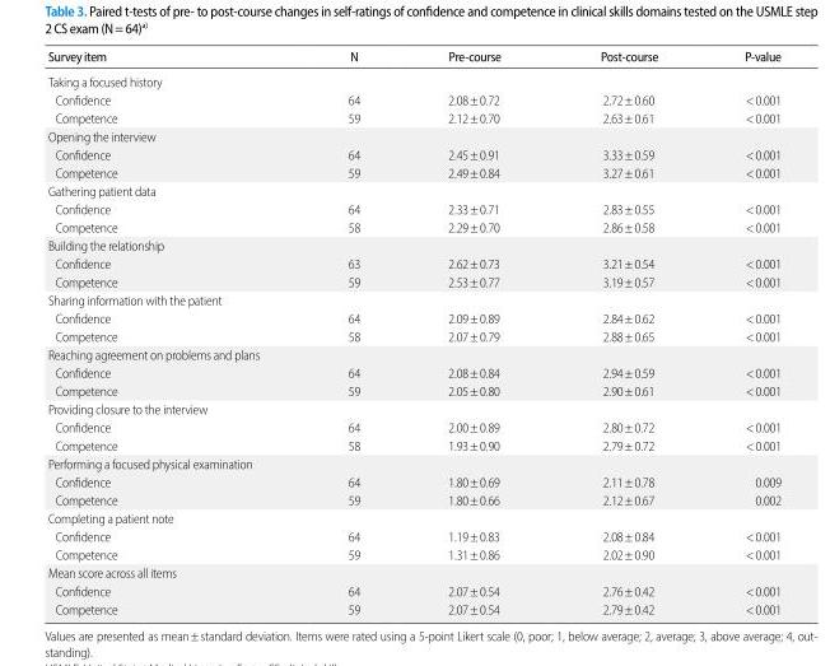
<table><thead><tr><td>Survey item</td><td>N</td><td>Pre-course</td><td>Post-course</td><td>P-value</td></tr></thead><tbody><tr><td colspan="5">Taking a focused history</td></tr><tr><td>Confidence</td><td>64</td><td>2.08±0.72</td><td>2.72±0.60</td><td>&lt;0.001</td></tr><tr><td>Competence</td><td>59</td><td>2.12±0.70</td><td>2.63±0.61</td><td>&lt;0.001</td></tr><tr><td colspan="5">Opening the interview</td></tr><tr><td>Confidence</td><td>64</td><td>2.45±0.91</td><td>3.33±0.59</td><td>&lt;0.001</td></tr><tr><td>Competence</td><td>59</td><td>2.49±0.84</td><td>3.27±0.61</td><td>&lt;0.001</td></tr><tr><td colspan="5">Gathering patient data</td></tr><tr><td>Confidence</td><td>64</td><td>2.33±0.71</td><td>2.83±0.55</td><td>&lt;0.001</td></tr><tr><td>Competence</td><td>58</td><td>2.29±0.70</td><td>2.86±0.58</td><td>&lt;0.001</td></tr><tr><td colspan="5">Building the relationship</td></tr><tr><td>Confidence</td><td>63</td><td>2.62±0.73</td><td>3.21±0.54</td><td>&lt;0.001</td></tr><tr><td>Competence</td><td>59</td><td>2.53±0.77</td><td>3.19±0.57</td><td>&lt;0.001</td></tr><tr><td colspan="5">Sharing information with the patient</td></tr><tr><td>Confidence</td><td>64</td><td>2.09±0.89</td><td>2.84±0.62</td><td>&lt;0.001</td></tr><tr><td>Competence</td><td>58</td><td>2.07±0.79</td><td>2.88±0.65</td><td>&lt;0.001</td></tr><tr><td colspan="5">Reaching agreement on problems and plans</td></tr><tr><td>Confidence</td><td>64</td><td>2.08±0.84</td><td>2.94±0.59</td><td>&lt;0.001</td></tr><tr><td>Competence</td><td>59</td><td>2.05±0.80</td><td>2.90±0.61</td><td>&lt;0.001</td></tr><tr><td colspan="5">Providing closure to the interview</td></tr><tr><td>Confidence</td><td>64</td><td>2.00±0.89</td><td>2.80±0.72</td><td>&lt;0.001</td></tr><tr><td>Competence</td><td>58</td><td>1.93±0.90</td><td>2.79±0.72</td><td>&lt;0.001</td></tr><tr><td colspan="5">Performing a focused physical examination</td></tr><tr><td>Confidence</td><td>64</td><td>1.80±0.69</td><td>2.11±0.78</td><td>0.009</td></tr><tr><td>Competence</td><td>59</td><td>1.80±0.66</td><td>2.12±0.67</td><td>0.002</td></tr><tr><td colspan="5">Completing a patient note</td></tr><tr><td>Confidence</td><td>64</td><td>1.19±0.83</td><td>2.08±0.84</td><td>&lt;0.001</td></tr><tr><td>Competence</td><td>59</td><td>1.31±0.86</td><td>2.02±0.90</td><td>&lt;0.001</td></tr><tr><td colspan="5">Mean score across all items</td></tr><tr><td>Confidence</td><td>64</td><td>2.07±0.54</td><td>2.76±0.42</td><td>&lt;0.001</td></tr><tr><td>Competence</td><td>59</td><td>2.07±0.54</td><td>2.79±0.42</td><td>&lt;0.001</td></tr></tbody></table>